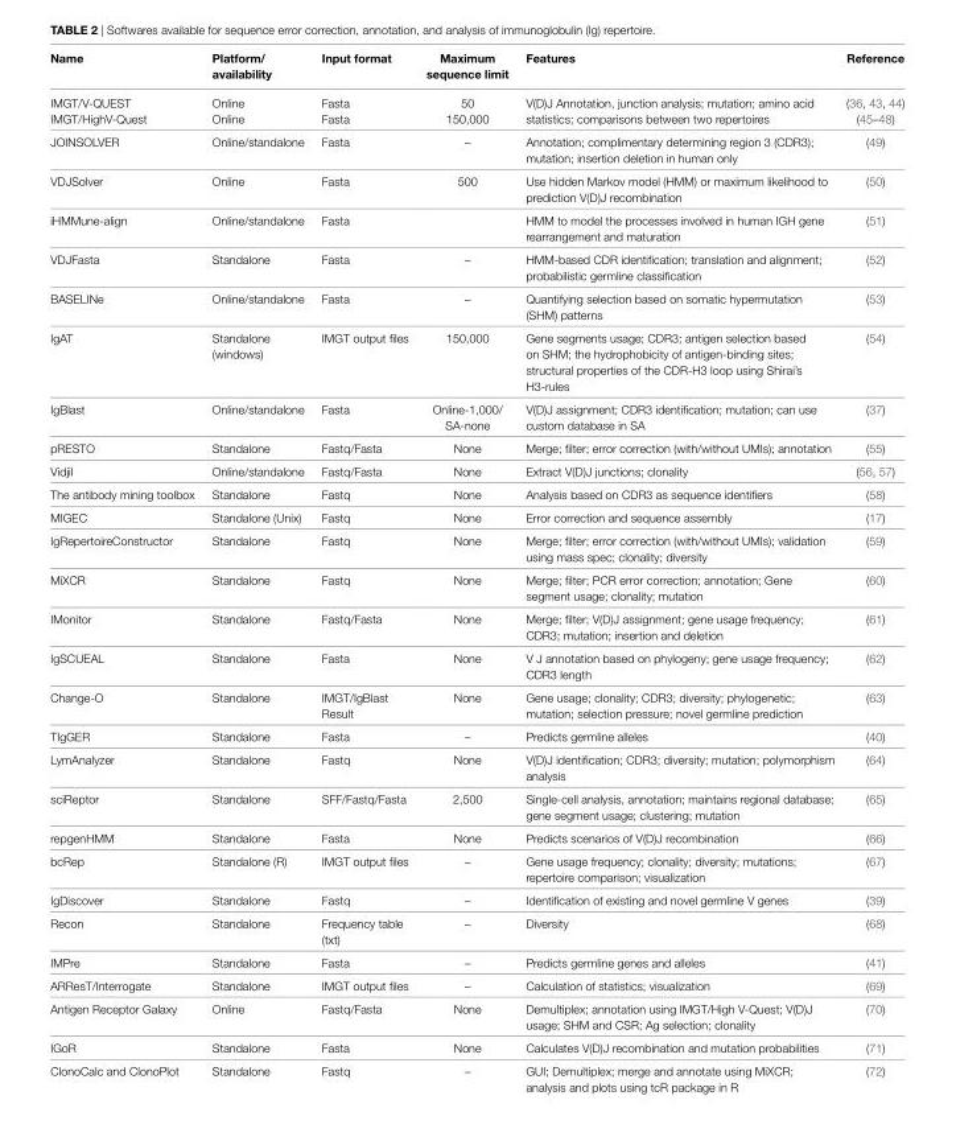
<table><thead><tr><td>Name</td><td>Platform/ availability</td><td>input format</td><td>Maximum sequence limit</td><td>Features</td><td>Reference</td></tr></thead><tbody><tr><td>IMGT/V-QUEST</td><td>Online</td><td>Fasta</td><td>50</td><td rowspan="2">V(D)J Annotation, junction analysis; mutation; amino acid statistics; comparisons between two repertoires</td><td>(36, 43, 44)</td></tr><tr><td>IMGT/HighV-Quest</td><td>Online</td><td>Fasta</td><td>150,000</td><td>(45–48)</td></tr><tr><td>JOINSOLVER</td><td>Online/standalone</td><td>Fasta</td><td>–</td><td>Annotation; complimentary determining region 3 (CDR3); mutation; insertion deletion in human only</td><td>(49)</td></tr><tr><td>VDJSolver</td><td>Online</td><td>Fasta</td><td>500</td><td>Use hidden Markov model (HMM) or maximum likelihood to prediction V(D)J recombination</td><td>(50)</td></tr><tr><td>iHMMune-align</td><td>Online/standalone</td><td>Fasta</td><td></td><td>HMM to model the processes involved in human IGH gene rearrangement and maturation</td><td>(51)</td></tr><tr><td>VDJFasta</td><td>Standalone</td><td>Fasta</td><td>–</td><td>HMM-based CDR identification; translation and alignment; probabilistic germline classification</td><td>(52)</td></tr><tr><td>BASELINe</td><td>Online/standalone</td><td>Fasta</td><td>–</td><td>Quantifying selection based on somatic hypermutation (SHM) patterns</td><td>(53)</td></tr><tr><td>IgAT</td><td>Standalone (windows)</td><td>IMGT output files</td><td>150,000</td><td>Gene segments usage; CDR3; antigen selection based on SHM; the hydrophobicity of antigen-binding sites; structural properties of the CDR-H3 loop using Shirai’s H3-rules</td><td>(54)</td></tr><tr><td>IgBlast</td><td>Online/standalone</td><td>Fasta</td><td>Online-1,000/ SA-none</td><td>V(D)J assignment; CDR3 identification; mutation; can use custom database in SA</td><td>(37)</td></tr><tr><td>pRESTO</td><td>Standalone</td><td>Fastq/Fasta</td><td>None</td><td>Merge; filter; error correction (with/without UMIs); annotation</td><td>(55)</td></tr><tr><td>Vidjil</td><td>Online/standalone</td><td>Fastq/Fasta</td><td>None</td><td>Extract V(D)J junctions; clonality</td><td>(56, 57)</td></tr><tr><td>The antibody mining toolbox</td><td>Standalone</td><td>Fastq</td><td>None</td><td>Analysis based on CDR3 as sequence identifiers</td><td>(58)</td></tr><tr><td>MIGEC</td><td>Standalone (Unix)</td><td>Fastq</td><td>None</td><td>Error correction and sequence assembly</td><td>(17)</td></tr><tr><td>IgRepertoireConstructor</td><td>Standalone</td><td>Fastq</td><td>None</td><td>Merge; filter; error correction (with/without UMIs); validation using mass spec; clonality; diversity</td><td>(59)</td></tr><tr><td>MiXCR</td><td>Standalone</td><td>Fastq</td><td>None</td><td>Merge; filter; PCR error correction; annotation; Gene segment usage; clonality; mutation</td><td>(60)</td></tr><tr><td>IMonitor</td><td>Standalone</td><td>Fastq/Fasta</td><td>None</td><td>Merge; filter; V(D)J assignment; gene usage frequency; CDR3; mutation; insertion and deletion</td><td>(61)</td></tr><tr><td>IgSCUEAL</td><td>Standalone</td><td>Fasta</td><td>None</td><td>V J annotation based on phylogeny; gene usage frequency; CDR3 length</td><td>(62)</td></tr><tr><td>Change-O</td><td>Standalone</td><td>IMGT/IgBlast Result</td><td>None</td><td>Gene usage; clonality; CDR3; diversity; phylogenetic; mutation; selection pressure; novel germline prediction</td><td>(63)</td></tr><tr><td>TIgGER</td><td>Standalone</td><td>Fasta</td><td>–</td><td>Predicts germline alleles</td><td>(40)</td></tr><tr><td>LymAnalyzer</td><td>Standalone</td><td>Fastq</td><td>None</td><td>V(D)J identification; CDR3; diversity; mutation; polymorphism analysis</td><td>(64)</td></tr><tr><td>sciReptor</td><td>Standalone</td><td>SFF/Fastq/Fasta</td><td>2,500</td><td>Single-cell analysis, annotation; maintains regional database; gene segment usage; clustering; mutation</td><td>(65)</td></tr><tr><td>repgenHMM</td><td>Standalone</td><td>Fasta</td><td>None</td><td>Predicts scenarios of V(D)J recombination</td><td>(66)</td></tr><tr><td>bcRep</td><td>Standalone (R)</td><td>IMGT output files</td><td>–</td><td>Gene usage frequency; clonality; diversity; mutations; repertoire comparison; visualization</td><td>(67)</td></tr><tr><td>IgDiscover</td><td>Standalone</td><td>Fastq</td><td>–</td><td>Identification of existing and novel germline V genes</td><td>(39)</td></tr><tr><td>Recon</td><td>Standalone</td><td>Frequency table (txt)</td><td>–</td><td>Diversity</td><td>(68)</td></tr><tr><td>IMPre</td><td>Standalone</td><td>Fasta</td><td>–</td><td>Predicts germline genes and alleles</td><td>(41)</td></tr><tr><td>ARResT/Interrogate</td><td>Standalone</td><td>IMGT output files</td><td>–</td><td>Calculation of statistics; visualization</td><td>(69)</td></tr><tr><td>Antigen Receptor Galaxy</td><td>Online</td><td>Fastq/Fasta</td><td>None</td><td>Demultiplex; annotation using IMGT/High V-Quest; V(D)J usage; SHM and CSR; Ag selection; clonality</td><td>(70)</td></tr><tr><td>IGoR</td><td>Standalone</td><td>Fasta</td><td>None</td><td>Calculates V(D)J recombination and mutation probabilities</td><td>(71)</td></tr><tr><td>ClonoCalc and ClonoPlot</td><td>Standalone</td><td>Fastq</td><td>–</td><td>GUI; Demultiplex; merge and annotate using MiXCR; analysis and plots using tcR package in R</td><td>(72)</td></tr></tbody></table>